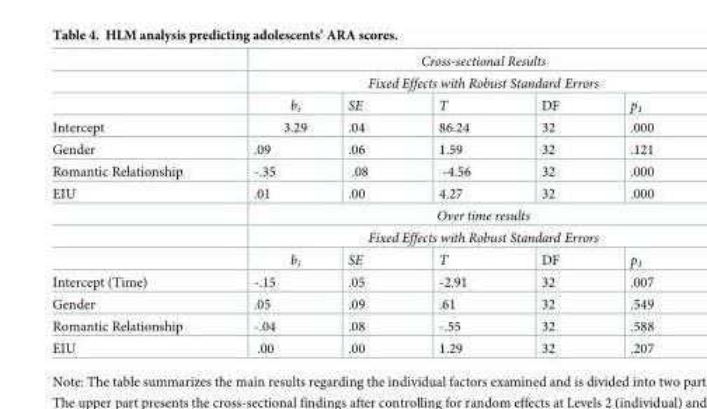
<table><thead><tr><td rowspan="3"></td><td rowspan="2" colspan="5">Cross-sectional Results Fixed Effects with Robust Standard Errors</td></tr><tr></tr><tr><td>b<sub>i</sub></td><td>SE</td><td>T</td><td>DF</td><td>p<sub>1</sub></td></tr></thead><tbody><tr><td>Intercept</td><td>3.29</td><td>.04</td><td>86.24</td><td>32</td><td>.000</td></tr><tr><td>Gender</td><td>.09</td><td>.06</td><td>1.59</td><td>32</td><td>.121</td></tr><tr><td>Romantic Relationship</td><td>-.35</td><td>.08</td><td>-4.56</td><td>32</td><td>.000</td></tr><tr><td rowspan="4">EIU</td><td>.01</td><td>.00</td><td>4.27</td><td>32</td><td>.000</td></tr><tr><td colspan="5">Over time results</td></tr><tr><td colspan="5">Fixed Effects with Robust Standard Errors</td></tr><tr><td>b<sub>i</sub></td><td>SE</td><td>T</td><td>DF</td><td>p<sub>1</sub></td></tr><tr><td>Intercept (Time)</td><td>-.15</td><td>.05</td><td>-2.91</td><td>32</td><td>.007</td></tr><tr><td>Gender</td><td>.05</td><td>.09</td><td>.61</td><td>32</td><td>.549</td></tr><tr><td>Romantic Relationship</td><td>-.04</td><td>.08</td><td>-.55</td><td>32</td><td>.588</td></tr><tr><td>EIU</td><td>.00</td><td>.00</td><td>1.29</td><td>32</td><td>.207</td></tr></tbody></table>